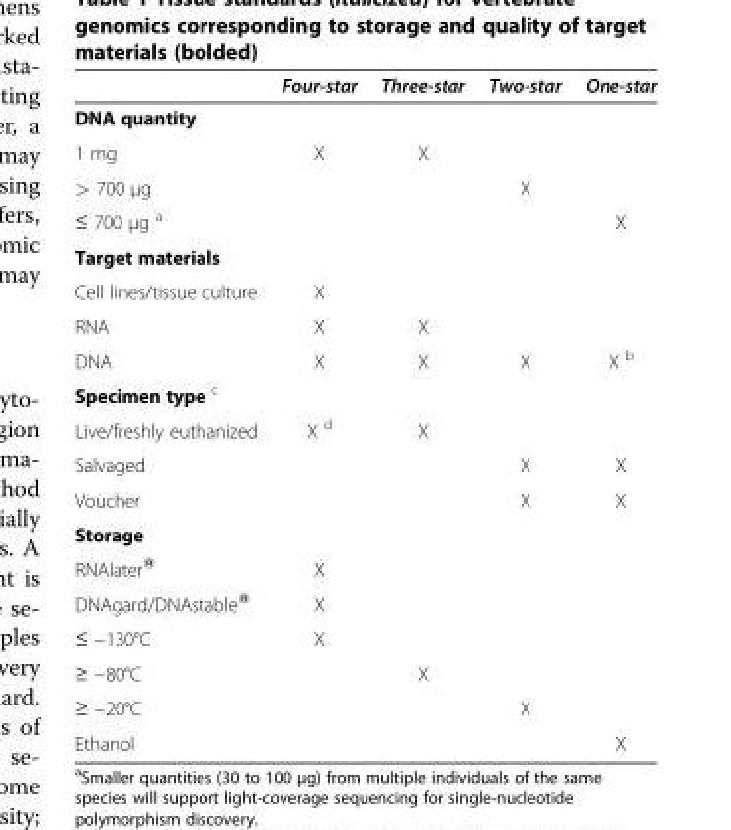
<table><thead><tr><td></td><td>Four-star</td><td>Three-star</td><td>Two-star</td><td>One-star</td></tr></thead><tbody><tr><td colspan="5">DNA quantity</td></tr><tr><td>1 mg</td><td>X</td><td>X</td><td></td><td></td></tr><tr><td>&gt; 700 μg</td><td></td><td></td><td>X</td><td></td></tr><tr><td>≤ 700 μg <sup>a</sup></td><td></td><td></td><td></td><td>X</td></tr><tr><td colspan="5">Target materials</td></tr><tr><td>Cell lines/tissue culture</td><td>X</td><td></td><td></td><td></td></tr><tr><td>RNA</td><td>X</td><td>X</td><td></td><td></td></tr><tr><td>DNA</td><td>X</td><td>X</td><td>X</td><td>X <sup>b</sup></td></tr><tr><td colspan="5">Specimen type <sup>c</sup></td></tr><tr><td>Live/freshly euthanized</td><td>X <sup>d</sup></td><td>X</td><td></td><td></td></tr><tr><td>Salvaged</td><td></td><td></td><td>X</td><td>X</td></tr><tr><td>Voucher</td><td></td><td></td><td>X</td><td>X</td></tr><tr><td colspan="5">Storage</td></tr><tr><td>RNAlater®</td><td>X</td><td></td><td></td><td></td></tr><tr><td>DNAgard/DNAstable®</td><td>X</td><td></td><td></td><td></td></tr><tr><td>≤ −130°C</td><td>X</td><td></td><td></td><td></td></tr><tr><td>≥ −80°C</td><td></td><td>X</td><td></td><td></td></tr><tr><td>≥ −20°C</td><td></td><td></td><td>X</td><td></td></tr><tr><td>Ethanol</td><td></td><td></td><td></td><td>X</td></tr></tbody></table>